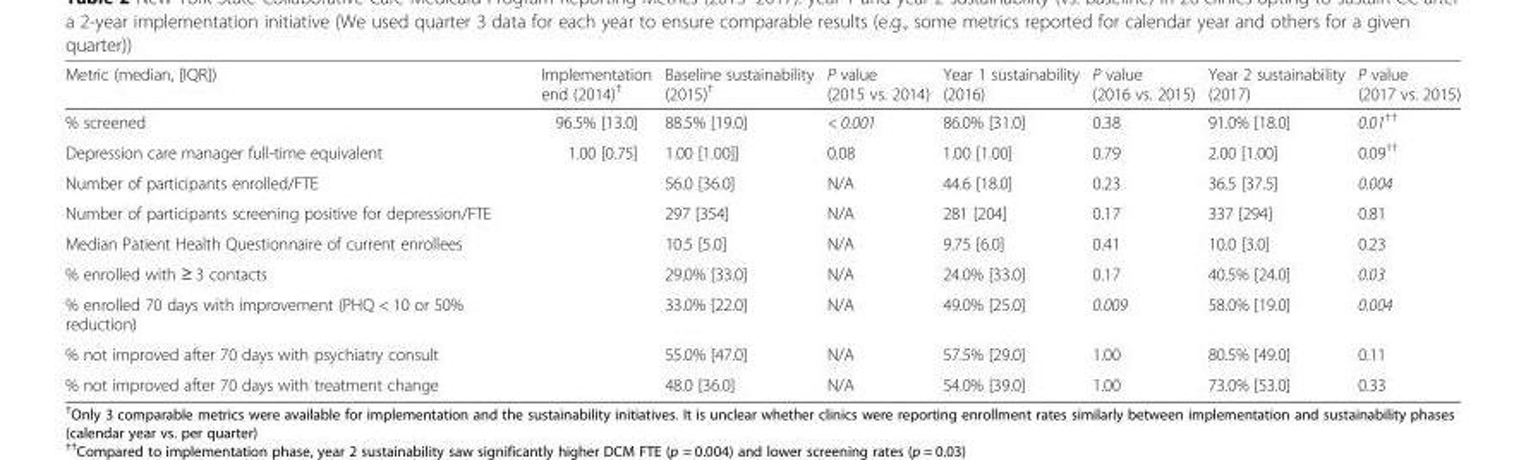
<table><thead><tr><td>Metric (median, [IQR])</td><td>Implementation end (2014)<sup>†</sup></td><td>Baseline sustainability (2015)<sup>†</sup></td><td>P value (2015 vs. 2014)</td><td>Year 1 sustainability (2016)</td><td>P value (2016 vs. 2015)</td><td>Year 2 sustainability (2017)</td><td>P value (2017 vs. 2015)</td></tr></thead><tbody><tr><td>% screened</td><td>96.5% [13.0]</td><td>88.5% [19.0]</td><td>&lt; 0.001</td><td>86.0% [31.0]</td><td>0.38</td><td>91.0% [18.0]</td><td>0.01<sup>††</sup></td></tr><tr><td>Depression care manager full-time equivalent</td><td>1.00 [0.75]</td><td>1.00 [1.00]]</td><td>0.08</td><td>1.00 [1.00]</td><td>0.79</td><td>2.00 [1.00]</td><td>0.09<sup>††</sup></td></tr><tr><td>Number of participants enrolled/FTE</td><td></td><td>56.0 [36.0]</td><td>N/A</td><td>44.6 [18.0]</td><td>0.23</td><td>36.5 [37.5]</td><td>0.004</td></tr><tr><td>Number of participants screening positive for depression/FTE</td><td></td><td>297 [354]</td><td>N/A</td><td>281 [204]</td><td>0.17</td><td>337 [294]</td><td>0.81</td></tr><tr><td>Median Patient Health Questionnaire of current enrollees</td><td></td><td>10.5 [5.0]</td><td>N/A</td><td>9.75 [6.0]</td><td>0.41</td><td>10.0 [3.0]</td><td>0.23</td></tr><tr><td>% enrolled with ≥ 3 contacts</td><td></td><td>29.0% [33.0]</td><td>N/A</td><td>24.0% [33.0]</td><td>0.17</td><td>40.5% [24.0]</td><td>0.03</td></tr><tr><td>% enrolled 70 days with improvement (PHQ &lt; 10 or 50% reduction)</td><td></td><td>33.0% [22.0]</td><td>N/A</td><td>49.0% [25.0]</td><td>0.009</td><td>58.0% [19.0]</td><td>0.004</td></tr><tr><td>% not improved after 70 days with psychiatry consult</td><td></td><td>55.0% [47.0]</td><td>N/A</td><td>57.5% [29.0]</td><td>1.00</td><td>80.5% [49.0]</td><td>0.11</td></tr><tr><td>% not improved after 70 days with treatment change</td><td></td><td>48.0 [36.0]</td><td>N/A</td><td>54.0% [39.0]</td><td>1.00</td><td>73.0% [53.0]</td><td>0.33</td></tr></tbody></table>